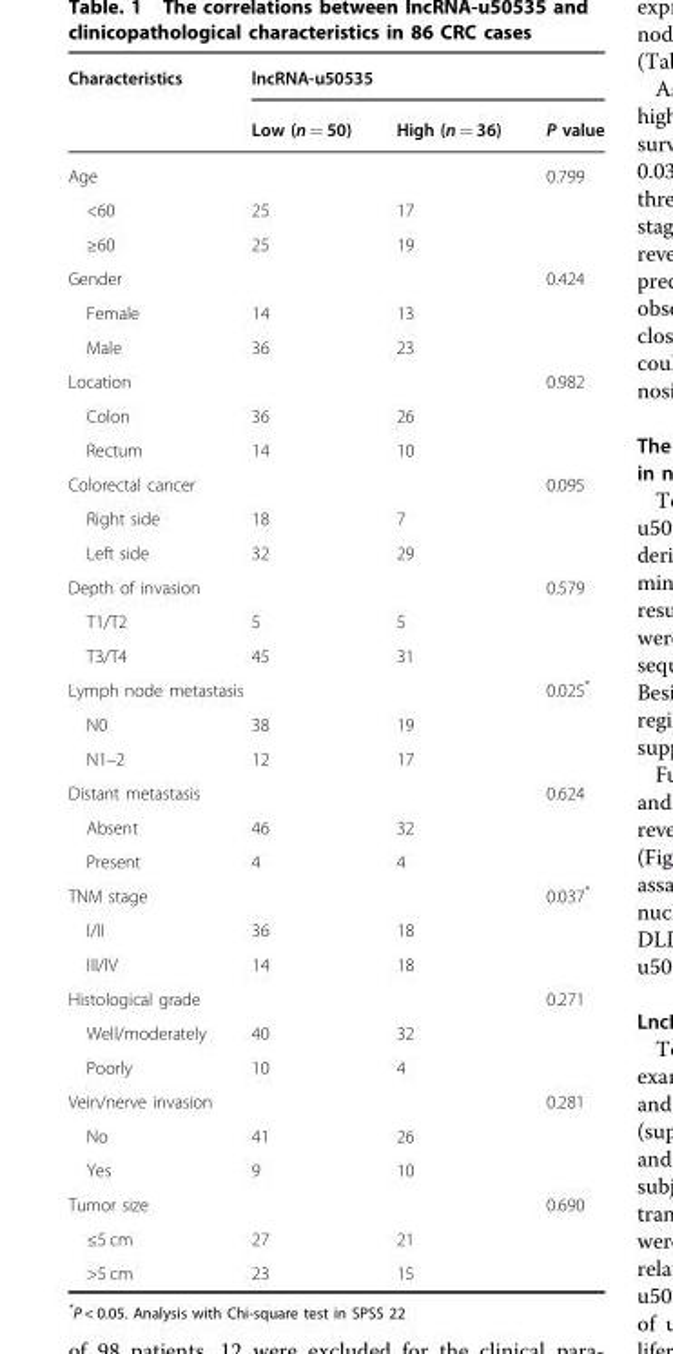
<table><thead><tr><td rowspan="2">Characteristics</td><td colspan="3">lncRNA-u50535</td></tr><tr><td>Low (n = 50)</td><td>High (n = 36)</td><td>P value</td></tr></thead><tbody><tr><td colspan="3">Age</td><td rowspan="3">0.799</td></tr><tr><td>&lt;60</td><td>25</td><td>17</td></tr><tr><td>≥60</td><td>25</td><td>19</td></tr><tr><td colspan="3">Gender</td><td rowspan="3">0.424</td></tr><tr><td>Female</td><td>14</td><td>13</td></tr><tr><td>Male</td><td>36</td><td>23</td></tr><tr><td colspan="3">Location</td><td rowspan="3">0.982</td></tr><tr><td>Colon</td><td>36</td><td>26</td></tr><tr><td>Rectum</td><td>14</td><td>10</td></tr><tr><td colspan="3">Colorectal cancer</td><td rowspan="3">0.095</td></tr><tr><td>Right side</td><td>18</td><td>7</td></tr><tr><td>Left side</td><td>32</td><td>29</td></tr><tr><td colspan="3">Depth of invasion</td><td rowspan="3">0.579</td></tr><tr><td>T1/T2</td><td>5</td><td>5</td></tr><tr><td>T3/T4</td><td>45</td><td>31</td></tr><tr><td colspan="3">Lymph node metastasis</td><td rowspan="3">0.025*</td></tr><tr><td>N0</td><td>38</td><td>19</td></tr><tr><td>N1–2</td><td>12</td><td>17</td></tr><tr><td colspan="3">Distant metastasis</td><td rowspan="3">0.624</td></tr><tr><td>Absent</td><td>46</td><td>32</td></tr><tr><td>Present</td><td>4</td><td>4</td></tr><tr><td colspan="3">TNM stage</td><td rowspan="3">0.037*</td></tr><tr><td>I/II</td><td>36</td><td>18</td></tr><tr><td>III/IV</td><td>14</td><td>18</td></tr><tr><td colspan="3">Histological grade</td><td rowspan="3">0.271</td></tr><tr><td>Well/moderately</td><td>40</td><td>32</td></tr><tr><td>Poorly</td><td>10</td><td>4</td></tr><tr><td colspan="3">Vein/nerve invasion</td><td rowspan="3">0.281</td></tr><tr><td>No</td><td>41</td><td>26</td></tr><tr><td>Yes</td><td>9</td><td>10</td></tr><tr><td colspan="3">Tumor size</td><td rowspan="3">0.690</td></tr><tr><td>≤5 cm</td><td>27</td><td>21</td></tr><tr><td>&gt;5 cm</td><td>23</td><td>15</td></tr></tbody></table>